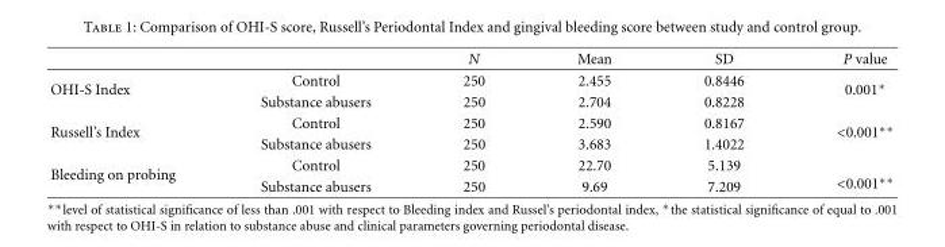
<table><thead><tr><td></td><td></td><td>N</td><td>Mean</td><td>SD</td><td>P value</td></tr></thead><tbody><tr><td rowspan="2">OHI-S Index</td><td>Control</td><td>250</td><td>2.455</td><td>0.8446</td><td rowspan="2">0.001∗</td></tr><tr><td>Substance abusers</td><td>250</td><td>2.704</td><td>0.8228</td></tr><tr><td rowspan="2">Russell’s Index</td><td>Control</td><td>250</td><td>2.590</td><td>0.8167</td><td rowspan="2">&lt;0.001∗∗</td></tr><tr><td>Substance abusers</td><td>250</td><td>3.683</td><td>1.4022</td></tr><tr><td rowspan="2">Bleeding on probing</td><td>Control</td><td>250</td><td>22.70</td><td>5.139</td><td rowspan="2">&lt;0.001∗∗</td></tr><tr><td>Substance abusers</td><td>250</td><td>9.69</td><td>7.209</td></tr></tbody></table>